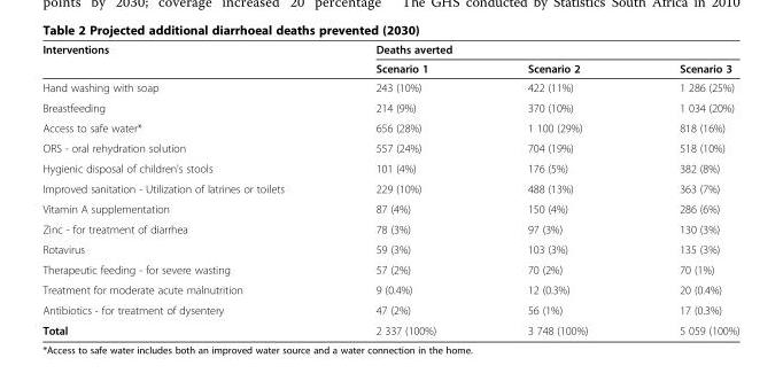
<table><thead><tr><td rowspan="2">Interventions</td><td colspan="3">Deaths averted</td></tr><tr><td>Scenario 1</td><td>Scenario 2</td><td>Scenario 3</td></tr></thead><tbody><tr><td>Hand washing with soap</td><td>243 (10%)</td><td>422 (11%)</td><td>1 286 (25%)</td></tr><tr><td>Breastfeeding</td><td>214 (9%)</td><td>370 (10%)</td><td>1 034 (20%)</td></tr><tr><td>Access to safe water*</td><td>656 (28%)</td><td>1 100 (29%)</td><td>818 (16%)</td></tr><tr><td>ORS - oral rehydration solution</td><td>557 (24%)</td><td>704 (19%)</td><td>518 (10%)</td></tr><tr><td>Hygienic disposal of children&#x27;s stools</td><td>101 (4%)</td><td>176 (5%)</td><td>382 (8%)</td></tr><tr><td>Improved sanitation - Utilization of latrines or toilets</td><td>229 (10%)</td><td>488 (13%)</td><td>363 (7%)</td></tr><tr><td>Vitamin A supplementation</td><td>87 (4%)</td><td>150 (4%)</td><td>286 (6%)</td></tr><tr><td>Zinc - for treatment of diarrhea</td><td>78 (3%)</td><td>97 (3%)</td><td>130 (3%)</td></tr><tr><td>Rotavirus</td><td>59 (3%)</td><td>103 (3%)</td><td>135 (3%)</td></tr><tr><td>Therapeutic feeding - for severe wasting</td><td>57 (2%)</td><td>70 (2%)</td><td>70 (1%)</td></tr><tr><td>Treatment for moderate acute malnutrition</td><td>9 (0.4%)</td><td>12 (0.3%)</td><td>20 (0.4%)</td></tr><tr><td>Antibiotics - for treatment of dysentery</td><td>47 (2%)</td><td>56 (1%)</td><td>17 (0.3%)</td></tr><tr><td>Total</td><td>2 337 (100%)</td><td>3 748 (100%)</td><td>5 059 (100%)</td></tr></tbody></table>